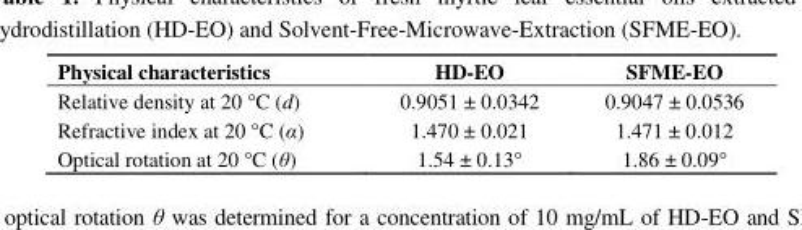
<table><thead><tr><td>Physical characteristics</td><td>HD-EO</td><td>SFME-EO</td></tr></thead><tbody><tr><td>Relative density at 20 °C (d)</td><td>0.9051 ± 0.0342</td><td>0.9047 ± 0.0536</td></tr><tr><td>Refractive index at 20 °C (α)</td><td>1.470 ± 0.021</td><td>1.471 ± 0.012</td></tr><tr><td>Optical rotation at 20 °C (θ)</td><td>1.54 ± 0.13°</td><td>1.86 ± 0.09°</td></tr></tbody></table>